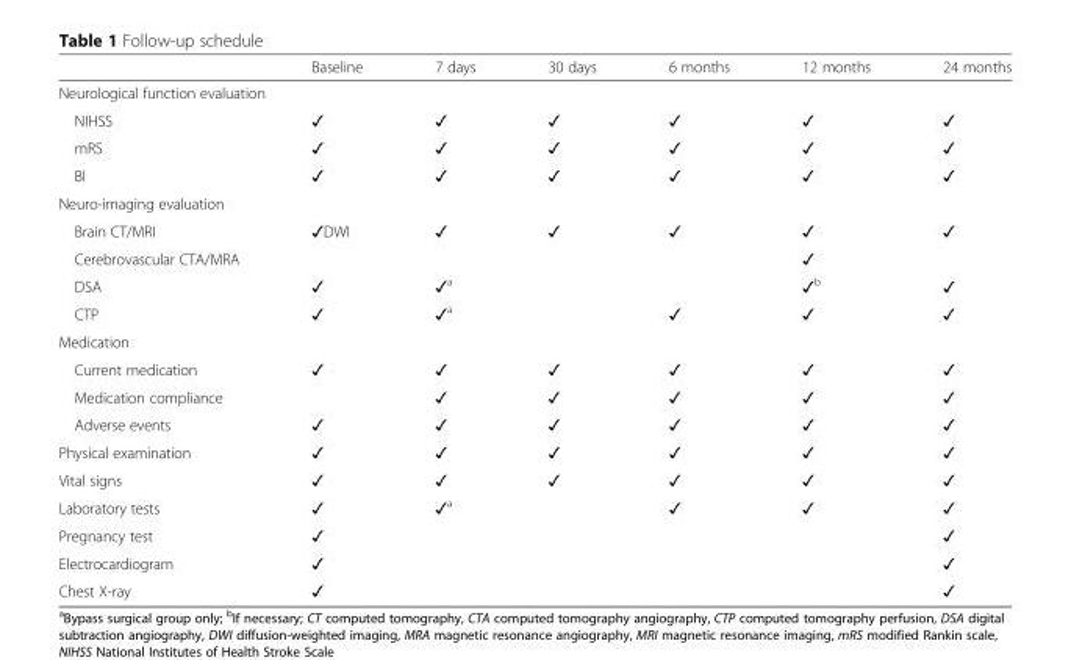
<table><thead><tr><td></td><td>Baseline</td><td>7 days</td><td>30 days</td><td>6 months</td><td>12 months</td><td>24 months</td></tr></thead><tbody><tr><td colspan="7">Neurological function evaluation</td></tr><tr><td>NIHSS</td><td>✓</td><td>✓</td><td>✓</td><td>✓</td><td>✓</td><td>✓</td></tr><tr><td>mRS</td><td>✓</td><td>✓</td><td>✓</td><td>✓</td><td>✓</td><td>✓</td></tr><tr><td>BI</td><td>✓</td><td>✓</td><td>✓</td><td>✓</td><td>✓</td><td>✓</td></tr><tr><td colspan="7">Neuro-imaging evaluation</td></tr><tr><td>Brain CT/MRI</td><td>✓DWI</td><td>✓</td><td>✓</td><td>✓</td><td>✓</td><td>✓</td></tr><tr><td>Cerebrovascular CTA/MRA</td><td></td><td></td><td></td><td></td><td>✓</td><td></td></tr><tr><td>DSA</td><td>✓</td><td>✓<sup>a</sup></td><td></td><td></td><td>✓<sup>b</sup></td><td>✓</td></tr><tr><td>CTP</td><td>✓</td><td>✓<sup>a</sup></td><td></td><td>✓</td><td>✓</td><td>✓</td></tr><tr><td colspan="7">Medication</td></tr><tr><td>Current medication</td><td>✓</td><td>✓</td><td>✓</td><td>✓</td><td>✓</td><td>✓</td></tr><tr><td>Medication compliance</td><td></td><td>✓</td><td>✓</td><td>✓</td><td>✓</td><td>✓</td></tr><tr><td>Adverse events</td><td>✓</td><td>✓</td><td>✓</td><td>✓</td><td>✓</td><td>✓</td></tr><tr><td>Physical examination</td><td>✓</td><td>✓</td><td>✓</td><td>✓</td><td>✓</td><td>✓</td></tr><tr><td>Vital signs</td><td>✓</td><td>✓</td><td>✓</td><td>✓</td><td>✓</td><td>✓</td></tr><tr><td>Laboratory tests</td><td>✓</td><td>✓<sup>a</sup></td><td></td><td>✓</td><td>✓</td><td>✓</td></tr><tr><td>Pregnancy test</td><td>✓</td><td></td><td></td><td></td><td></td><td>✓</td></tr><tr><td>Electrocardiogram</td><td>✓</td><td></td><td></td><td></td><td></td><td>✓</td></tr><tr><td>Chest X-ray</td><td>✓</td><td></td><td></td><td></td><td></td><td>✓</td></tr></tbody></table>